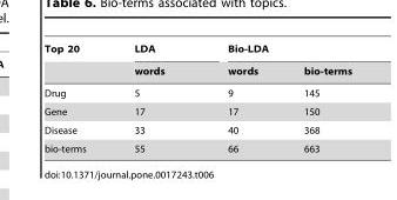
<table><thead><tr><td rowspan="2">Top 20</td><td rowspan="2">LDA words</td><td colspan="2">Bio-LDA</td></tr><tr><td>words</td><td>bio-terms</td></tr></thead><tbody><tr><td>Drug</td><td>5</td><td>9</td><td>145</td></tr><tr><td>Gene</td><td>17</td><td>17</td><td>150</td></tr><tr><td>Disease</td><td>33</td><td>40</td><td>368</td></tr><tr><td>bio-terms</td><td>55</td><td>66</td><td>663</td></tr></tbody></table>